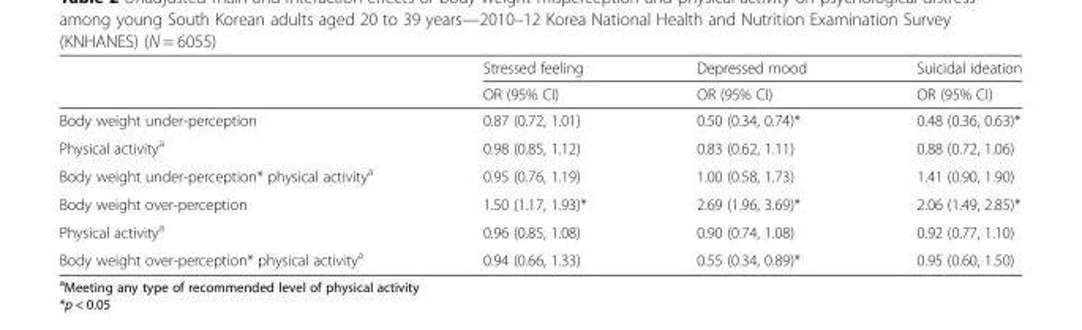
<table><thead><tr><td rowspan="2"></td><td rowspan="2">Stressed feeling OR (95% CI)</td><td rowspan="2">Depressed mood OR (95% CI)</td><td rowspan="2">Suicidal ideation OR (95% CI)</td></tr><tr></tr></thead><tbody><tr><td>Body weight under-perception</td><td>0.87 (0.72, 1.01)</td><td>0.50 (0.34, 0.74)*</td><td>0.48 (0.36, 0.63)*</td></tr><tr><td>Physical activity<sup>a</sup></td><td>0.98 (0.85, 1.12)</td><td>0.83 (0.62, 1.11)</td><td>0.88 (0.72, 1.06)</td></tr><tr><td>Body weight under-perception* physical activity<sup>a</sup></td><td>0.95 (0.76, 1.19)</td><td>1.00 (0.58, 1.73)</td><td>1.41 (0.90, 1.90)</td></tr><tr><td>Body weight over-perception</td><td>1.50 (1.17, 1.93)*</td><td>2.69 (1.96, 3.69)*</td><td>2.06 (1.49, 2.85)*</td></tr><tr><td>Physical activity<sup>a</sup></td><td>0.96 (0.85, 1.08)</td><td>0.90 (0.74, 1.08)</td><td>0.92 (0.77, 1.10)</td></tr><tr><td>Body weight over-perception* physical activity<sup>a</sup></td><td>0.94 (0.66, 1.33)</td><td>0.55 (0.34, 0.89)*</td><td>0.95 (0.60, 1.50)</td></tr></tbody></table>